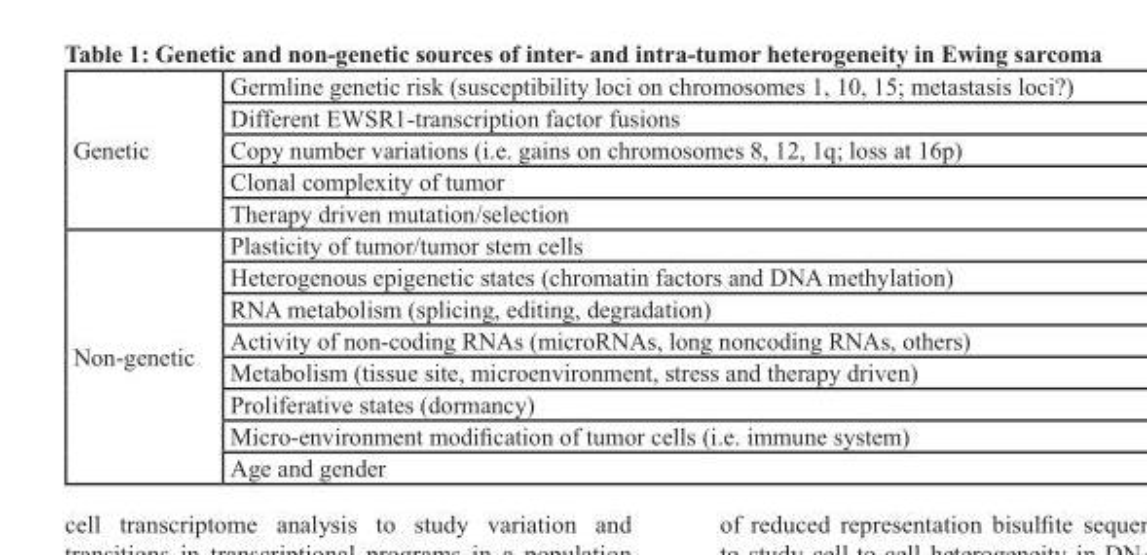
<table><tbody><tr><td rowspan="5">Genetic</td><td>Germline genetic risk (susceptibility loci on chromosomes 1, 10, 15; metastasis loci?)</td></tr><tr><td>Different EWSR1-transcription factor fusions</td></tr><tr><td>Copy number variations (i.e. gains on chromosomes 8, 12, 1q; loss at 16p)</td></tr><tr><td>Clonal complexity of tumor</td></tr><tr><td>Therapy driven mutation/selection</td></tr><tr><td rowspan="8">Non-genetic</td><td>Plasticity of tumor/tumor stem cells</td></tr><tr><td>Heterogenous epigenetic states (chromatin factors and DNA methylation)</td></tr><tr><td>RNA metabolism (splicing, editing, degradation)</td></tr><tr><td>Activity of non-coding RNAs (microRNAs, long noncoding RNAs, others)</td></tr><tr><td>Metabolism (tissue site, microenvironment, stress and therapy driven)</td></tr><tr><td>Proliferative states (dormancy)</td></tr><tr><td>Micro-environment modification of tumor cells (i.e. immune system)</td></tr><tr><td>Age and gender</td></tr></tbody></table>